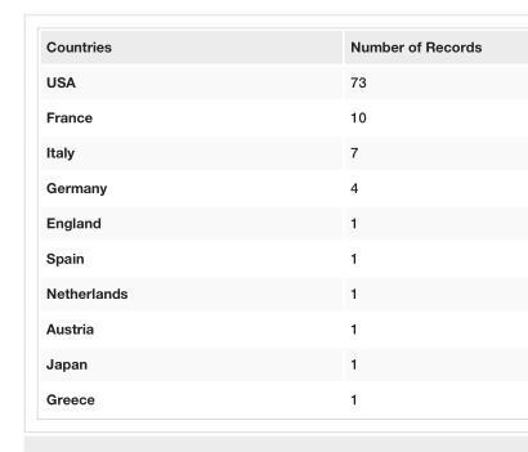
<table><tbody><tr><td>Countries</td><td>Number of Records</td></tr><tr><td>USA</td><td>73</td></tr><tr><td>France</td><td>10</td></tr><tr><td>Italy</td><td>7</td></tr><tr><td>Germany</td><td>4</td></tr><tr><td>England</td><td>1</td></tr><tr><td>Spain</td><td>1</td></tr><tr><td>Netherlands</td><td>1</td></tr><tr><td>Austria</td><td>1</td></tr><tr><td>Japan</td><td>1</td></tr><tr><td>Greece</td><td>1</td></tr></tbody></table>